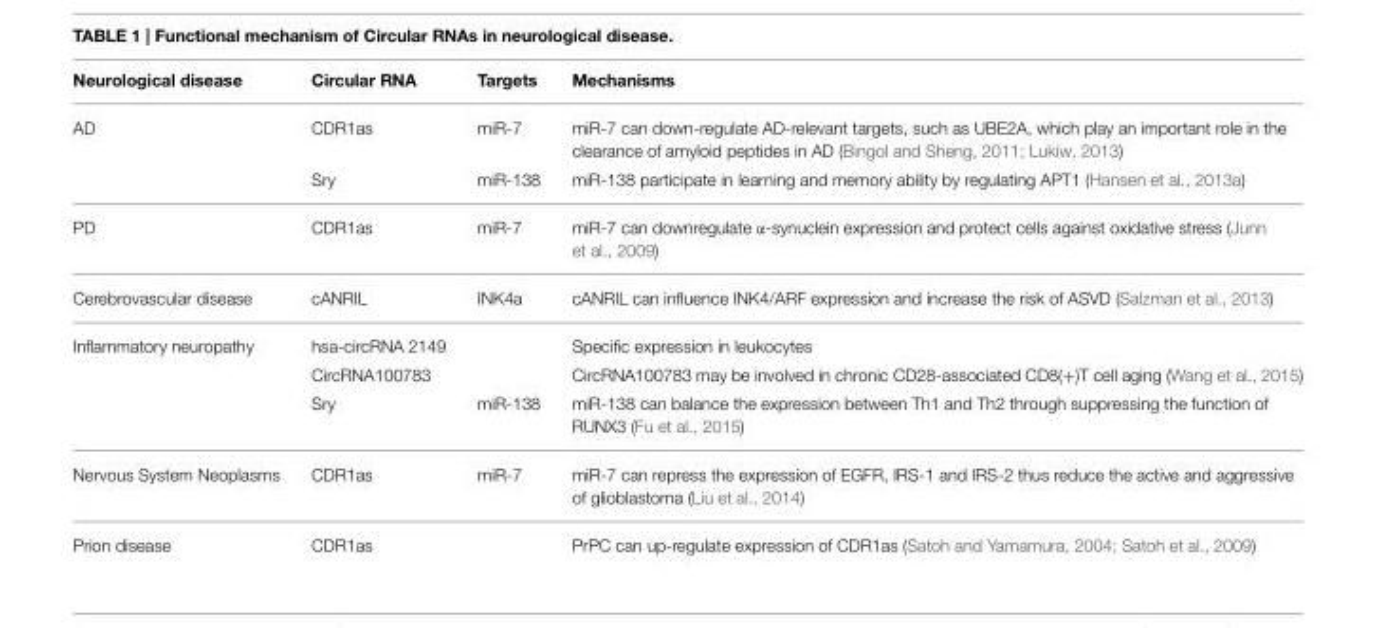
<table><thead><tr><td>Neurological disease</td><td>Circular RNA</td><td>Targets</td><td>Mechanisms</td></tr></thead><tbody><tr><td rowspan="2">AD</td><td>CDR1as</td><td>miR-7</td><td>miR-7 can down-regulate AD-relevant targets, such as UBE2A, which play an important role in the clearance of amyloid peptides in AD (Bingol and Sheng, 2011; Lukiw, 2013)</td></tr><tr><td>Sry</td><td>miR-138</td><td>miR-138 participate in learning and memory ability by regulating APT1 (Hansen et al., 2013a)</td></tr><tr><td>PD</td><td>CDR1as</td><td>miR-7</td><td>miR-7 can downregulate α-synuclein expression and protect cells against oxidative stress (Junn et al., 2009)</td></tr><tr><td>Cerebrovascular disease</td><td>cANRIL</td><td>INK4a</td><td>cANRIL can influence INK4/ARF expression and increase the risk of ASVD (Salzman et al., 2013)</td></tr><tr><td rowspan="3">Inflammatory neuropathy</td><td>hsa-circRNA 2149</td><td></td><td>Specific expression in leukocytes</td></tr><tr><td>CircRNA100783</td><td></td><td>CircRNA100783 may be involved in chronic CD28-associated CD8(+)T cell aging (Wang et al., 2015)</td></tr><tr><td>Sry</td><td>miR-138</td><td>miR-138 can balance the expression between Th1 and Th2 through suppressing the function of RUNX3 (Fu et al., 2015)</td></tr><tr><td>Nervous System Neoplasms</td><td>CDR1as</td><td>miR-7</td><td>miR-7 can repress the expression of EGFR, IRS-1 and IRS-2 thus reduce the active and aggressive of glioblastoma (Liu et al., 2014)</td></tr><tr><td>Prion disease</td><td>CDR1as</td><td></td><td>PrPC can up-regulate expression of CDR1as (Satoh and Yamamura, 2004; Satoh et al., 2009)</td></tr></tbody></table>